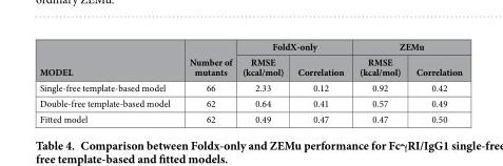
<table><thead><tr><td rowspan="2">MODEL</td><td rowspan="2">Number of mutants</td><td colspan="2">FoldX-only</td><td colspan="2">ZEMu</td></tr><tr><td>RMSE (kcal/mol)</td><td>Correlation</td><td>RMSE (kcal/mol)</td><td>Correlation</td></tr></thead><tbody><tr><td>Single-free template-based model</td><td>66</td><td>2.33</td><td>0.12</td><td>0.92</td><td>0.42</td></tr><tr><td>Double-free template-based model</td><td>62</td><td>0.64</td><td>0.41</td><td>0.57</td><td>0.49</td></tr><tr><td>Fitted model</td><td>62</td><td>0.49</td><td>0.47</td><td>0.47</td><td>0.50</td></tr></tbody></table>